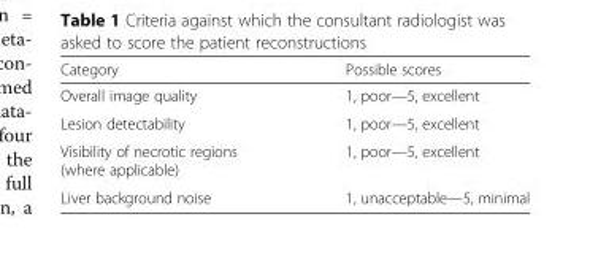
<table><thead><tr><td>Category</td><td>Possible scores</td></tr></thead><tbody><tr><td>Overall image quality</td><td>1, poor—5, excellent</td></tr><tr><td>Lesion detectability</td><td>1, poor—5, excellent</td></tr><tr><td>Visibility of necrotic regions (where applicable)</td><td>1, poor—5, excellent</td></tr><tr><td>Liver background noise</td><td>1, unacceptable—5, minimal</td></tr></tbody></table>